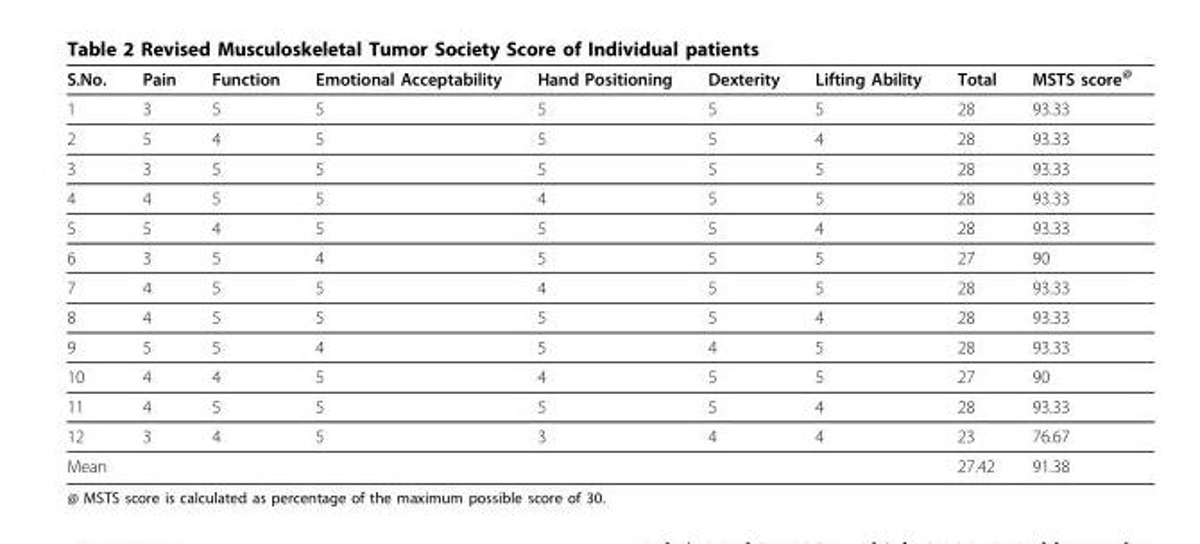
<table><thead><tr><td>S.No.</td><td>Pain</td><td>Function</td><td>Emotional Acceptability</td><td>Hand Positioning</td><td>Dexterity</td><td>Lifting Ability</td><td>Total</td><td>MSTS score<sup>@</sup></td></tr></thead><tbody><tr><td>1</td><td>3</td><td>5</td><td>5</td><td>5</td><td>5</td><td>5</td><td>28</td><td>93.33</td></tr><tr><td>2</td><td>5</td><td>4</td><td>5</td><td>5</td><td>5</td><td>4</td><td>28</td><td>93.33</td></tr><tr><td>3</td><td>3</td><td>5</td><td>5</td><td>5</td><td>5</td><td>5</td><td>28</td><td>93.33</td></tr><tr><td>4</td><td>4</td><td>5</td><td>5</td><td>4</td><td>5</td><td>5</td><td>28</td><td>93.33</td></tr><tr><td>5</td><td>5</td><td>4</td><td>5</td><td>5</td><td>5</td><td>4</td><td>28</td><td>93.33</td></tr><tr><td>6</td><td>3</td><td>5</td><td>4</td><td>5</td><td>5</td><td>5</td><td>27</td><td>90</td></tr><tr><td>7</td><td>4</td><td>5</td><td>5</td><td>4</td><td>5</td><td>5</td><td>28</td><td>93.33</td></tr><tr><td>8</td><td>4</td><td>5</td><td>5</td><td>5</td><td>5</td><td>4</td><td>28</td><td>93.33</td></tr><tr><td>9</td><td>5</td><td>5</td><td>4</td><td>5</td><td>4</td><td>5</td><td>28</td><td>93.33</td></tr><tr><td>10</td><td>4</td><td>4</td><td>5</td><td>4</td><td>5</td><td>5</td><td>27</td><td>90</td></tr><tr><td>11</td><td>4</td><td>5</td><td>5</td><td>5</td><td>5</td><td>4</td><td>28</td><td>93.33</td></tr><tr><td>12</td><td>3</td><td>4</td><td>5</td><td>3</td><td>4</td><td>4</td><td>23</td><td>76.67</td></tr><tr><td>Mean</td><td></td><td></td><td></td><td></td><td></td><td></td><td>27.42</td><td>91.38</td></tr></tbody></table>